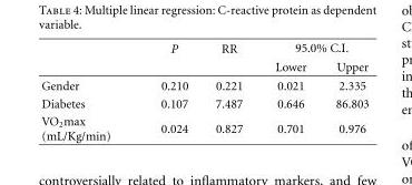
<table><thead><tr><td rowspan="2"></td><td rowspan="2">P</td><td rowspan="2">RR</td><td colspan="2">95.0% C.I.</td></tr><tr><td>Lower</td><td>Upper</td></tr></thead><tbody><tr><td>Gender</td><td>0.210</td><td>0.221</td><td>0.021</td><td>2.335</td></tr><tr><td>Diabetes</td><td>0.107</td><td>7.487</td><td>0.646</td><td>86.803</td></tr><tr><td>VO<sub>2</sub>max (mL/Kg/min)</td><td>0.024</td><td>0.827</td><td>0.701</td><td>0.976</td></tr></tbody></table>